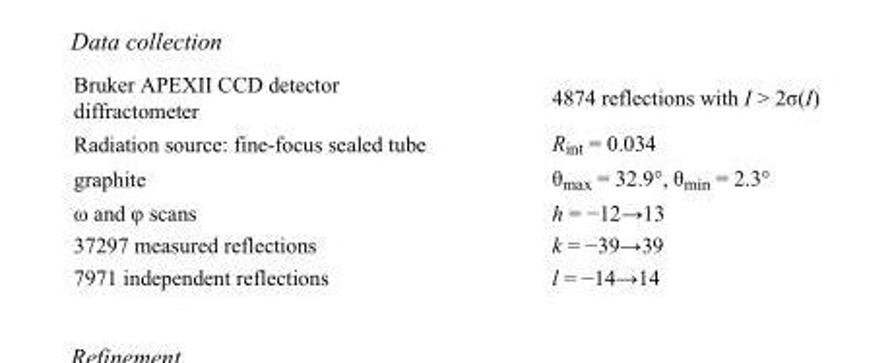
<table><tbody><tr><td>Bruker APEXII CCD detector diffractometer</td><td>4874 reflections with I &gt; 2σ(I)</td></tr><tr><td>Radiation source: fine-focus sealed tube</td><td>R<sub>int</sub> = 0.034</td></tr><tr><td>graphite</td><td>θ<sub>max</sub> = 32.9°, θ<sub>min</sub> = 2.3°</td></tr><tr><td>ω and φ scans</td><td>h = −12→13</td></tr><tr><td>37297 measured reflections</td><td>k = −39→39</td></tr><tr><td>7971 independent reflections</td><td>l = −14→14</td></tr></tbody></table>